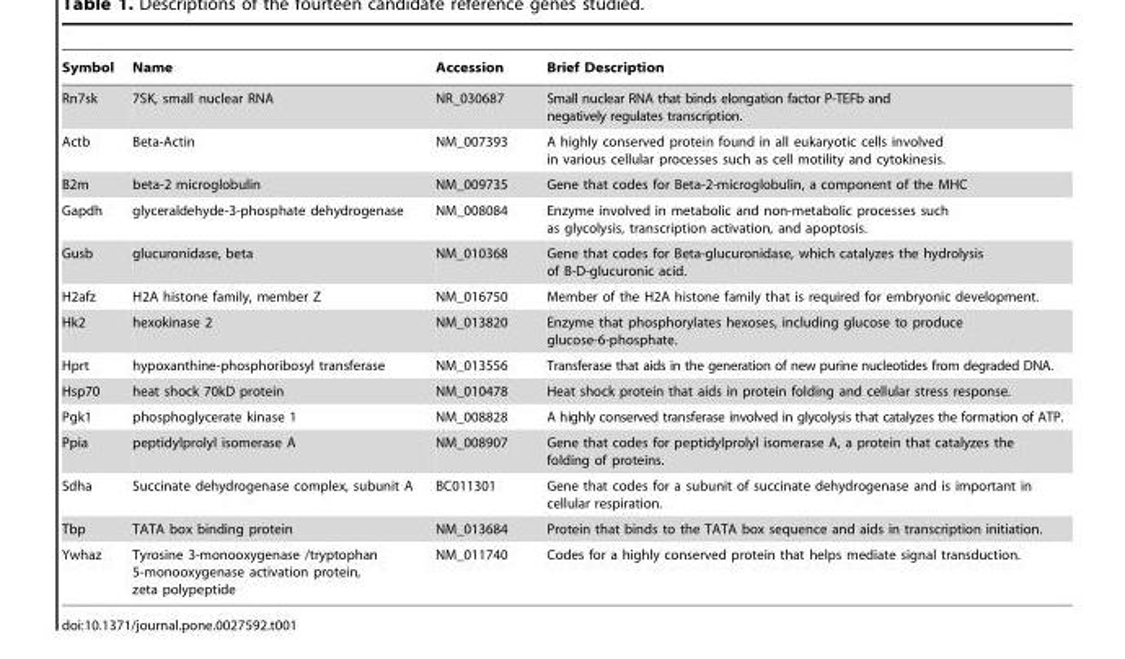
<table><thead><tr><td>Symbol</td><td>Name</td><td>Accession</td><td>Brief Description</td></tr></thead><tbody><tr><td>Rn7sk</td><td>7SK, small nuclear RNA</td><td>NR_030687</td><td>Small nuclear RNA that binds elongation factor P-TEFb and negatively regulates transcription.</td></tr><tr><td>Actb</td><td>Beta-Actin</td><td>NM_007393</td><td>A highly conserved protein found in all eukaryotic cells involved in various cellular processes such as cell motility and cytokinesis.</td></tr><tr><td>B2m</td><td>beta-2 microglobulin</td><td>NM_009735</td><td>Gene that codes for Beta-2-microglobulin, a component of the MHC</td></tr><tr><td>Gapdh</td><td>glyceraldehyde-3-phosphate dehydrogenase</td><td>NM_008084</td><td>Enzyme involved in metabolic and non-metabolic processes such as glycolysis, transcription activation, and apoptosis.</td></tr><tr><td>Gusb</td><td>glucuronidase, beta</td><td>NM_010368</td><td>Gene that codes for Beta-glucuronidase, which catalyzes the hydrolysis of B-D-glucuronic acid.</td></tr><tr><td>H2afz</td><td>H2A histone family, member Z</td><td>NM_016750</td><td>Member of the H2A histone family that is required for embryonic development.</td></tr><tr><td>Hk2</td><td>hexokinase 2</td><td>NM_013820</td><td>Enzyme that phosphorylates hexoses, including glucose to produce glucose-6-phosphate.</td></tr><tr><td>Hprt</td><td>hypoxanthine-phosphoribosyl transferase</td><td>NM_013556</td><td>Transferase that aids in the generation of new purine nucleotides from degraded DNA.</td></tr><tr><td>Hsp70</td><td>heat shock 70kD protein</td><td>NM_010478</td><td>Heat shock protein that aids in protein folding and cellular stress response.</td></tr><tr><td>Pgk1</td><td>phosphoglycerate kinase 1</td><td>NM_008828</td><td>A highly conserved transferase involved in glycolysis that catalyzes the formation of ATP.</td></tr><tr><td>Ppia</td><td>peptidylprolyl isomerase A</td><td>NM_008907</td><td>Gene that codes for peptidylprolyl isomerase A, a protein that catalyzes the folding of proteins.</td></tr><tr><td>Sdha</td><td>Succinate dehydrogenase complex, subunit A</td><td>BC011301</td><td>Gene that codes for a subunit of succinate dehydrogenase and is important in cellular respiration.</td></tr><tr><td>Tbp</td><td>TATA box binding protein</td><td>NM_013684</td><td>Protein that binds to the TATA box sequence and aids in transcription initiation.</td></tr><tr><td>Ywhaz</td><td>Tyrosine 3-monooxygenase /tryptophan 5-monooxygenase activation protein, zeta polypeptide</td><td>NM_011740</td><td>Codes for a highly conserved protein that helps mediate signal transduction.</td></tr></tbody></table>